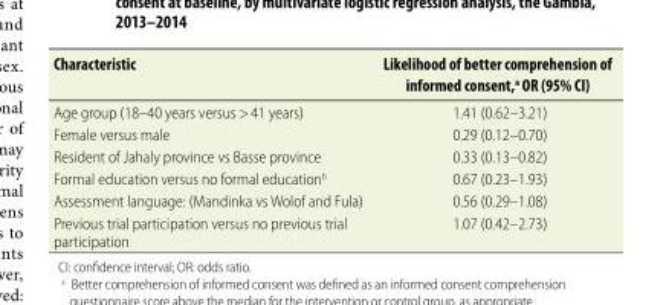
<table><thead><tr><td>Characteristic</td><td>Likelihood of better comprehension of informed consent,<sup>a</sup> OR (95% CI)</td></tr></thead><tbody><tr><td>Age group (18–40 years versus &gt; 41 years)</td><td>1.41 (0.62–3.21)</td></tr><tr><td>Female versus male</td><td>0.29 (0.12–0.70)</td></tr><tr><td>Resident of Jahaly province vs Basse province</td><td>0.33 (0.13–0.82)</td></tr><tr><td>Formal education versus no formal education<sup>b</sup></td><td>0.67 (0.23–1.93)</td></tr><tr><td>Assessment language: (Mandinka vs Wolof and Fula)</td><td>0.56 (0.29–1.08)</td></tr><tr><td>Previous trial participation versus no previous trial participation</td><td>1.07 (0.42–2.73)</td></tr></tbody></table>